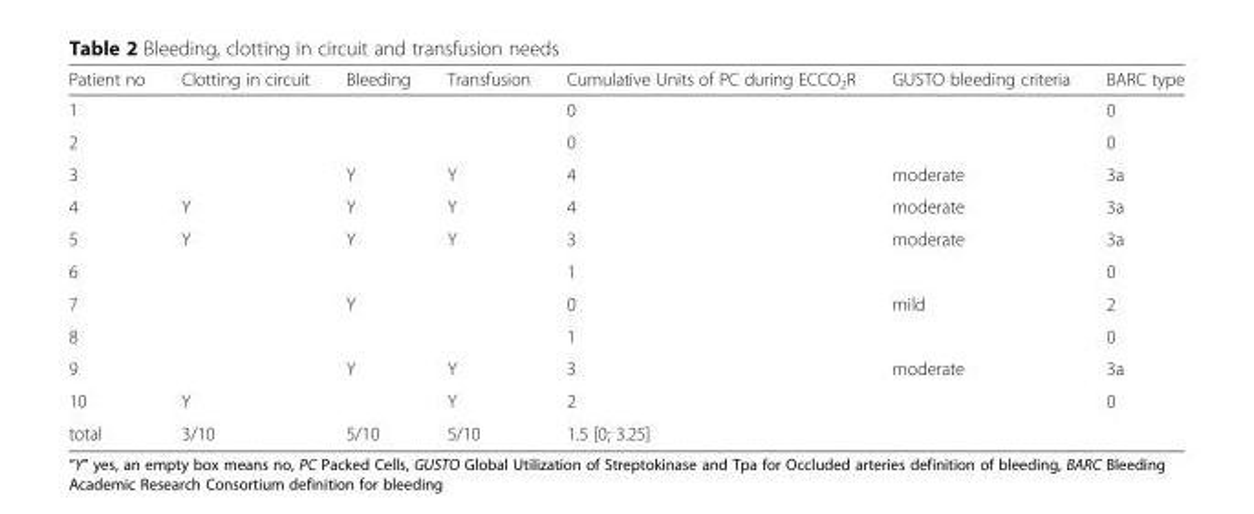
<table><thead><tr><td>Patient no</td><td>Clotting in circuit</td><td>Bleeding</td><td>Transfusion</td><td>Cumulative Units of PC during ECCO<sub>2</sub>R</td><td>GUSTO bleeding criteria</td><td>BARC type</td></tr></thead><tbody><tr><td>1</td><td></td><td></td><td></td><td>0</td><td></td><td>0</td></tr><tr><td>2</td><td></td><td></td><td></td><td>0</td><td></td><td>0</td></tr><tr><td>3</td><td></td><td>Y</td><td>Y</td><td>4</td><td>moderate</td><td>3a</td></tr><tr><td>4</td><td>Y</td><td>Y</td><td>Y</td><td>4</td><td>moderate</td><td>3a</td></tr><tr><td>5</td><td>Y</td><td>Y</td><td>Y</td><td>3</td><td>moderate</td><td>3a</td></tr><tr><td>6</td><td></td><td></td><td></td><td>1</td><td></td><td>0</td></tr><tr><td>7</td><td></td><td>Y</td><td></td><td>0</td><td>mild</td><td>2</td></tr><tr><td>8</td><td></td><td></td><td></td><td>1</td><td></td><td>0</td></tr><tr><td>9</td><td></td><td>Y</td><td>Y</td><td>3</td><td>moderate</td><td>3a</td></tr><tr><td>10</td><td>Y</td><td></td><td>Y</td><td>2</td><td></td><td>0</td></tr><tr><td>total</td><td>3/10</td><td>5/10</td><td>5/10</td><td>1.5 [0; 3.25]</td><td></td><td></td></tr></tbody></table>